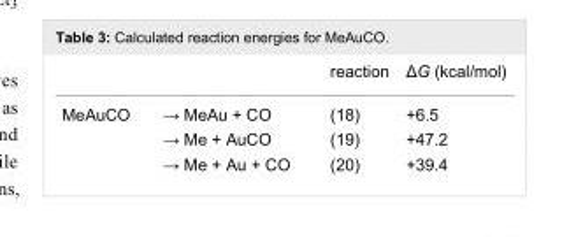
<table><thead><tr><td></td><td></td><td>reaction</td><td>ΔG (kcal/mol)</td></tr></thead><tbody><tr><td rowspan="3">MeAuCO</td><td>→ MeAu + CO</td><td>(18)</td><td>+6.5</td></tr><tr><td>→ Me + AuCO</td><td>(19)</td><td>+47.2</td></tr><tr><td>→ Me + Au + CO</td><td>(20)</td><td>+39.4</td></tr></tbody></table>